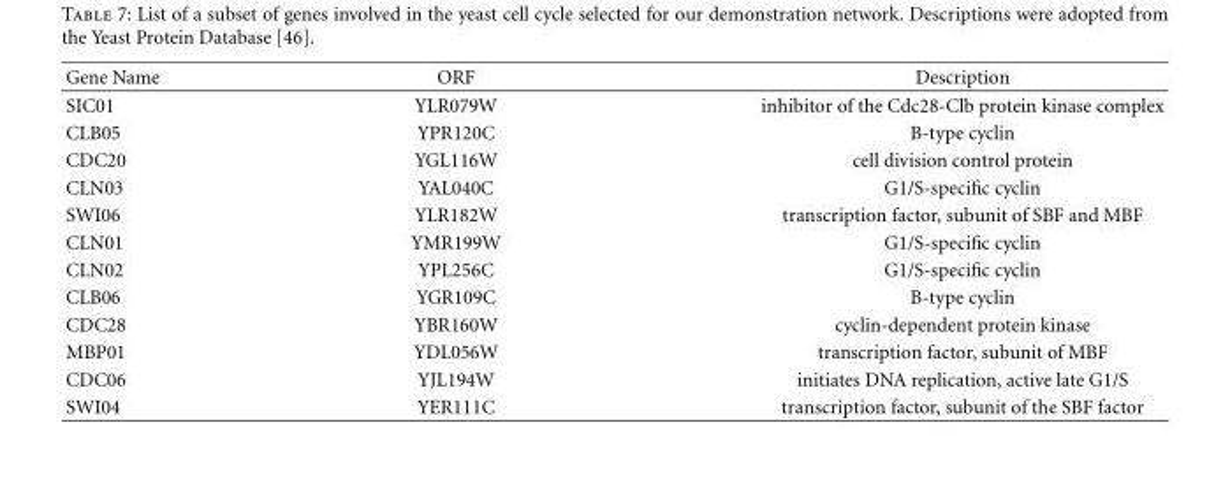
<table><thead><tr><td>Gene Name</td><td>ORF</td><td>Description</td></tr></thead><tbody><tr><td>SIC01</td><td>YLR079W</td><td>inhibitor of the Cdc28-Clb protein kinase complex</td></tr><tr><td>CLB05</td><td>YPR120C</td><td>B-type cyclin</td></tr><tr><td>CDC20</td><td>YGL116W</td><td>cell division control protein</td></tr><tr><td>CLN03</td><td>YAL040C</td><td>G1/S-specific cyclin</td></tr><tr><td>SWI06</td><td>YLR182W</td><td>transcription factor, subunit of SBF and MBF</td></tr><tr><td>CLN01</td><td>YMR199W</td><td>G1/S-specific cyclin</td></tr><tr><td>CLN02</td><td>YPL256C</td><td>G1/S-specific cyclin</td></tr><tr><td>CLB06</td><td>YGR109C</td><td>B-type cyclin</td></tr><tr><td>CDC28</td><td>YBR160W</td><td>cyclin-dependent protein kinase</td></tr><tr><td>MBP01</td><td>YDL056W</td><td>transcription factor, subunit of MBF</td></tr><tr><td>CDC06</td><td>YJL194W</td><td>initiates DNA replication, active late G1/S</td></tr><tr><td>SWI04</td><td>YER111C</td><td>transcription factor, subunit of the SBF factor</td></tr></tbody></table>